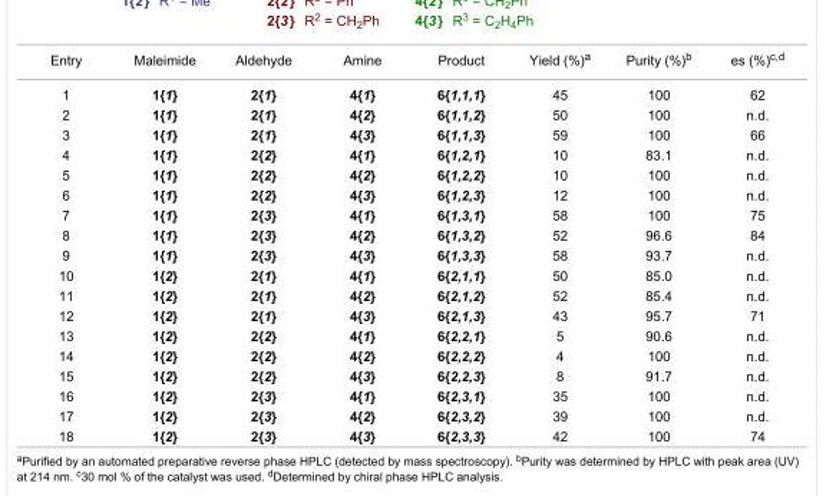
<table><tbody><tr><td>Entry</td><td>Maleimide</td><td>Aldehyde</td><td>Amine</td><td>Product</td><td>Yield (%)<sup>a</sup></td><td>Purity (%)<sup>b</sup></td><td>es (%)<sup>c,d</sup></td></tr><tr><td>1</td><td>1{1}</td><td>2{1}</td><td>4{1}</td><td>6{1,1,1}</td><td>45</td><td>100</td><td>62</td></tr><tr><td>2</td><td>1{1}</td><td>2{1}</td><td>4{2}</td><td>6{1,1,2}</td><td>50</td><td>100</td><td>n.d.</td></tr><tr><td>3</td><td>1{1}</td><td>2{1}</td><td>4{3}</td><td>6{1,1,3}</td><td>59</td><td>100</td><td>66</td></tr><tr><td>4</td><td>1{1}</td><td>2{2}</td><td>4{1}</td><td>6{1,2,1}</td><td>10</td><td>83.1</td><td>n.d.</td></tr><tr><td>5</td><td>1{1}</td><td>2{2}</td><td>4{2}</td><td>6{1,2,2}</td><td>10</td><td>100</td><td>n.d.</td></tr><tr><td>6</td><td>1{1}</td><td>2{2}</td><td>4{3}</td><td>6{1,2,3}</td><td>12</td><td>100</td><td>n.d.</td></tr><tr><td>7</td><td>1{1}</td><td>2{3}</td><td>4{1}</td><td>6{1,3,1}</td><td>58</td><td>100</td><td>75</td></tr><tr><td>8</td><td>1{1}</td><td>2{3}</td><td>4{2}</td><td>6{1,3,2}</td><td>52</td><td>96.6</td><td>84</td></tr><tr><td>9</td><td>1{1}</td><td>2{3}</td><td>4{3}</td><td>6{1,3,3}</td><td>58</td><td>93.7</td><td>n.d.</td></tr><tr><td>10</td><td>1{2}</td><td>2{1}</td><td>4{1}</td><td>6{2,1,1}</td><td>50</td><td>85.0</td><td>n.d.</td></tr><tr><td>11</td><td>1{2}</td><td>2{1}</td><td>4{2}</td><td>6{2,1,2}</td><td>52</td><td>85.4</td><td>n.d.</td></tr><tr><td>12</td><td>1{2}</td><td>2{1}</td><td>4{3}</td><td>6{2,1,3}</td><td>43</td><td>95.7</td><td>71</td></tr><tr><td>13</td><td>1{2}</td><td>2{2}</td><td>4{1}</td><td>6{2,2,1}</td><td>5</td><td>90.6</td><td>n.d.</td></tr><tr><td>14</td><td>1{2}</td><td>2{2}</td><td>4{2}</td><td>6{2,2,2}</td><td>4</td><td>100</td><td>n.d.</td></tr><tr><td>15</td><td>1{2}</td><td>2{2}</td><td>4{3}</td><td>6{2,2,3}</td><td>8</td><td>91.7</td><td>n.d.</td></tr><tr><td>16</td><td>1{2}</td><td>2{3}</td><td>4{1}</td><td>6{2,3,1}</td><td>35</td><td>100</td><td>n.d.</td></tr><tr><td>17</td><td>1{2}</td><td>2{3}</td><td>4{2}</td><td>6{2,3,2}</td><td>39</td><td>100</td><td>n.d.</td></tr><tr><td>18</td><td>1{2}</td><td>2{3}</td><td>4{3}</td><td>6{2,3,3}</td><td>42</td><td>100</td><td>74</td></tr></tbody></table>